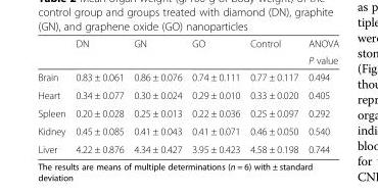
<table><thead><tr><td rowspan="2"></td><td rowspan="2">DN</td><td rowspan="2">GN</td><td rowspan="2">GO</td><td rowspan="2">Control</td><td rowspan="2">ANOVA P value</td></tr><tr></tr></thead><tbody><tr><td>Brain</td><td>0.83 ± 0.061</td><td>0.86 ± 0.076</td><td>0.74 ± 0.111</td><td>0.77 ± 0.117</td><td>0.494</td></tr><tr><td>Heart</td><td>0.34 ± 0.077</td><td>0.30 ± 0.024</td><td>0.29 ± 0.010</td><td>0.33 ± 0.020</td><td>0.405</td></tr><tr><td>Spleen</td><td>0.20 ± 0.028</td><td>0.25 ± 0.013</td><td>0.22 ± 0.036</td><td>0.25 ± 0.097</td><td>0.292</td></tr><tr><td>Kidney</td><td>0.45 ± 0.085</td><td>0.41 ± 0.043</td><td>0.41 ± 0.071</td><td>0.46 ± 0.050</td><td>0.540</td></tr><tr><td>Liver</td><td>4.22 ± 0.876</td><td>4.34 ± 0.427</td><td>3.95 ± 0.423</td><td>4.58 ± 0.198</td><td>0.744</td></tr></tbody></table>